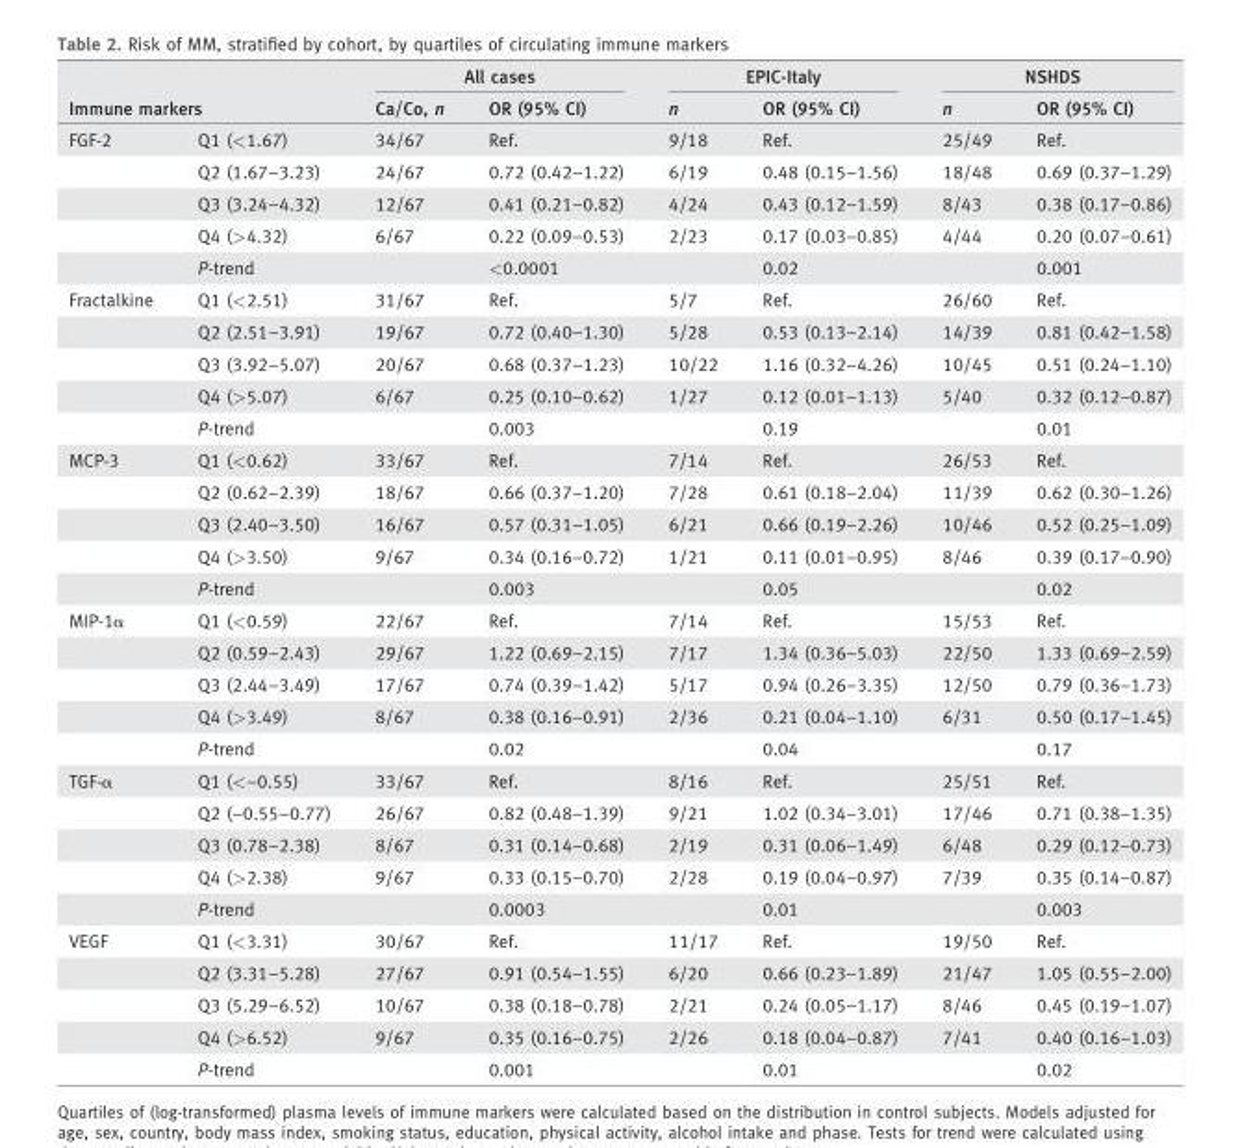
<table><thead><tr><td rowspan="2" colspan="2">Immune markers</td><td colspan="2">All cases</td><td colspan="2">EPIC-Italy</td><td colspan="2">NSHDS</td></tr><tr><td rowspan="2">Ca/Co, n 34/67</td><td rowspan="2">OR (95% CI) Ref.</td><td rowspan="2">n 9/18</td><td rowspan="2">OR (95% CI) Ref.</td><td rowspan="2">n 25/49</td><td rowspan="2">OR (95% CI) Ref.</td></tr><tr><td>FGF-2</td><td>Q1 (&lt;1.67)</td></tr></thead><tbody><tr><td></td><td>Q2 (1.67–3.23)</td><td>24/67</td><td>0.72 (0.42–1.22)</td><td>6/19</td><td>0.48 (0.15–1.56)</td><td>18/48</td><td>0.69 (0.37–1.29)</td></tr><tr><td></td><td>Q3 (3.24–4.32)</td><td>12/67</td><td>0.41 (0.21–0.82)</td><td>4/24</td><td>0.43 (0.12–1.59)</td><td>8/43</td><td>0.38 (0.17–0.86)</td></tr><tr><td></td><td>Q4 (&gt;4.32)</td><td>6/67</td><td>0.22 (0.09–0.53)</td><td>2/23</td><td>0.17 (0.03–0.85)</td><td>4/44</td><td>0.20 (0.07–0.61)</td></tr><tr><td></td><td>P-trend</td><td></td><td>&lt;0.0001</td><td></td><td>0.02</td><td></td><td>0.001</td></tr><tr><td rowspan="5">Fractalkine</td><td>Q1 (&lt;2.51)</td><td>31/67</td><td>Ref.</td><td>5/7</td><td>Ref.</td><td>26/60</td><td>Ref.</td></tr><tr><td>Q2 (2.51–3.91)</td><td>19/67</td><td>0.72 (0.40–1.30)</td><td>5/28</td><td>0.53 (0.13–2.14)</td><td>14/39</td><td>0.81 (0.42–1.58)</td></tr><tr><td>Q3 (3.92–5.07)</td><td>20/67</td><td>0.68 (0.37–1.23)</td><td>10/22</td><td>1.16 (0.32–4.26)</td><td>10/45</td><td>0.51 (0.24–1.10)</td></tr><tr><td>Q4 (&gt;5.07)</td><td>6/67</td><td>0.25 (0.10–0.62)</td><td>1/27</td><td>0.12 (0.01–1.13)</td><td>5/40</td><td>0.32 (0.12–0.87)</td></tr><tr><td>P-trend</td><td></td><td>0.003</td><td></td><td>0.19</td><td></td><td>0.01</td></tr><tr><td rowspan="5">MCP-3</td><td>Q1 (&lt;0.62)</td><td>33/67</td><td>Ref.</td><td>7/14</td><td>Ref.</td><td>26/53</td><td>Ref.</td></tr><tr><td>Q2 (0.62–2.39)</td><td>18/67</td><td>0.66 (0.37–1.20)</td><td>7/28</td><td>0.61 (0.18–2.04)</td><td>11/39</td><td>0.62 (0.30–1.26)</td></tr><tr><td>Q3 (2.40–3.50)</td><td>16/67</td><td>0.57 (0.31–1.05)</td><td>6/21</td><td>0.66 (0.19–2.26)</td><td>10/46</td><td>0.52 (0.25–1.09)</td></tr><tr><td>Q4 (&gt;3.50)</td><td>9/67</td><td>0.34 (0.16–0.72)</td><td>1/21</td><td>0.11 (0.01–0.95)</td><td>8/46</td><td>0.39 (0.17–0.90)</td></tr><tr><td>P-trend</td><td></td><td>0.003</td><td></td><td>0.05</td><td></td><td>0.02</td></tr><tr><td rowspan="5">MIP-1α</td><td>Q1 (&lt;0.59)</td><td>22/67</td><td>Ref.</td><td>7/14</td><td>Ref.</td><td>15/53</td><td>Ref.</td></tr><tr><td>Q2 (0.59–2.43)</td><td>29/67</td><td>1.22 (0.69–2.15)</td><td>7/17</td><td>1.34 (0.36–5.03)</td><td>22/50</td><td>1.33 (0.69–2.59)</td></tr><tr><td>Q3 (2.44–3.49)</td><td>17/67</td><td>0.74 (0.39–1.42)</td><td>5/17</td><td>0.94 (0.26–3.35)</td><td>12/50</td><td>0.79 (0.36–1.73)</td></tr><tr><td>Q4 (&gt;3.49)</td><td>8/67</td><td>0.38 (0.16–0.91)</td><td>2/36</td><td>0.21 (0.04–1.10)</td><td>6/31</td><td>0.50 (0.17–1.45)</td></tr><tr><td>P-trend</td><td></td><td>0.02</td><td></td><td>0.04</td><td></td><td>0.17</td></tr><tr><td rowspan="5">TGF-α</td><td>Q1 (&lt;–0.55)</td><td>33/67</td><td>Ref.</td><td>8/16</td><td>Ref.</td><td>25/51</td><td>Ref.</td></tr><tr><td>Q2 (–0.55–0.77)</td><td>26/67</td><td>0.82 (0.48–1.39)</td><td>9/21</td><td>1.02 (0.34–3.01)</td><td>17/46</td><td>0.71 (0.38–1.35)</td></tr><tr><td>Q3 (0.78–2.38)</td><td>8/67</td><td>0.31 (0.14–0.68)</td><td>2/19</td><td>0.31 (0.06–1.49)</td><td>6/48</td><td>0.29 (0.12–0.73)</td></tr><tr><td>Q4 (&gt;2.38)</td><td>9/67</td><td>0.33 (0.15–0.70)</td><td>2/28</td><td>0.19 (0.04–0.97)</td><td>7/39</td><td>0.35 (0.14–0.87)</td></tr><tr><td>P-trend</td><td></td><td>0.0003</td><td></td><td>0.01</td><td></td><td>0.003</td></tr><tr><td rowspan="5">VEGF</td><td>Q1 (&lt;3.31)</td><td>30/67</td><td>Ref.</td><td>11/17</td><td>Ref.</td><td>19/50</td><td>Ref.</td></tr><tr><td>Q2 (3.31–5.28)</td><td>27/67</td><td>0.91 (0.54–1.55)</td><td>6/20</td><td>0.66 (0.23–1.89)</td><td>21/47</td><td>1.05 (0.55–2.00)</td></tr><tr><td>Q3 (5.29–6.52)</td><td>10/67</td><td>0.38 (0.18–0.78)</td><td>2/21</td><td>0.24 (0.05–1.17)</td><td>8/46</td><td>0.45 (0.19–1.07)</td></tr><tr><td>Q4 (&gt;6.52)</td><td>9/67</td><td>0.35 (0.16–0.75)</td><td>2/26</td><td>0.18 (0.04–0.87)</td><td>7/41</td><td>0.40 (0.16–1.03)</td></tr><tr><td>P-trend</td><td></td><td>0.001</td><td></td><td>0.01</td><td></td><td>0.02</td></tr></tbody></table>